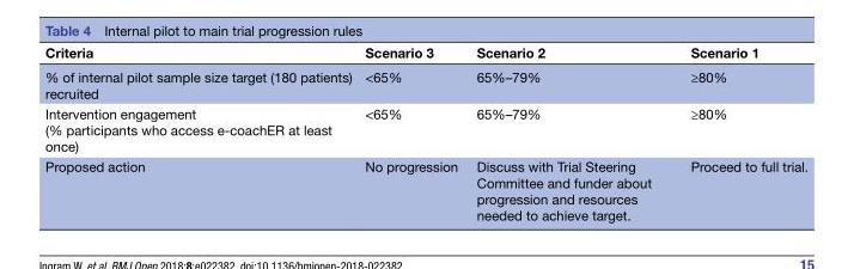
<table><thead><tr><td>Criteria</td><td>Scenario 3</td><td>Scenario 2</td><td>Scenario 1</td></tr></thead><tbody><tr><td>% of internal pilot sample size target (180 patients) recruited</td><td>&lt;65%</td><td>65%–79%</td><td>≥80%</td></tr><tr><td>Intervention engagement (% participants who access e-coachER at least once)</td><td>&lt;65%</td><td>65%–79%</td><td>≥80%</td></tr><tr><td>Proposed action</td><td>No progression</td><td>Discuss with Trial Steering Committee and funder about progression and resources needed to achieve target.</td><td>Proceed to full trial.</td></tr></tbody></table>